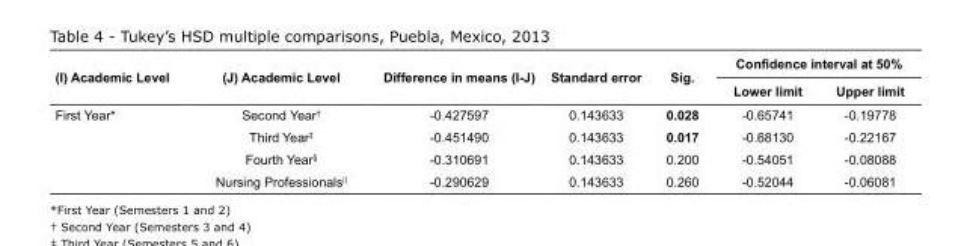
<table><thead><tr><td rowspan="2">(I) Academic Level</td><td rowspan="2">(J) Academic Level</td><td rowspan="2">Difference in means (I-J)</td><td rowspan="2">Standard error</td><td rowspan="2">Sig.</td><td colspan="2">Confidence interval at 50%</td></tr><tr><td>Lower limit</td><td>Upper limit</td></tr></thead><tbody><tr><td rowspan="4">First Year*</td><td>Second Year<sup>†</sup></td><td>-0.427597</td><td>0.143633</td><td>0.028</td><td>-0.65741</td><td>-0.19778</td></tr><tr><td>Third Year<sup>‡</sup></td><td>-0.451490</td><td>0.143633</td><td>0.017</td><td>-0.68130</td><td>-0.22167</td></tr><tr><td>Fourth Year<sup>§</sup></td><td>-0.310691</td><td>0.143633</td><td>0.200</td><td>-0.54051</td><td>-0.08088</td></tr><tr><td>Nursing Professionals<sup>||</sup></td><td>-0.290629</td><td>0.143633</td><td>0.260</td><td>-0.52044</td><td>-0.06081</td></tr></tbody></table>